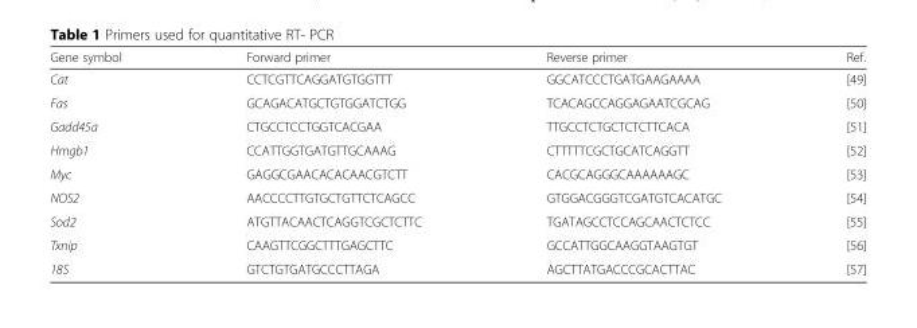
<table><thead><tr><td>Gene symbol</td><td>Forward primer</td><td>Reverse primer</td><td>Ref.</td></tr></thead><tbody><tr><td>Cat</td><td>CCTCGTTCAGGATGTGGTTT</td><td>GGCATCCCTGATGAAGAAAA</td><td>[49]</td></tr><tr><td>Fas</td><td>GCAGACATGCTGTGGATCTGG</td><td>TCACAGCCAGGAGAATCGCAG</td><td>[50]</td></tr><tr><td>Gadd45a</td><td>CTGCCTCCTGGTCACGAA</td><td>TTGCCTCTGCTCTCTTCACA</td><td>[51]</td></tr><tr><td>Hmgb1</td><td>CCATTGGTGATGTTGCAAAG</td><td>CTTTTTCGCTGCATCAGGTT</td><td>[52]</td></tr><tr><td>Myc</td><td>GAGGCGAACACACAACGTCTT</td><td>CACGCAGGGCAAAAAAGC</td><td>[53]</td></tr><tr><td>NOS2</td><td>AACCCCTTGTGCTGTTCTCAGCC</td><td>GTGGACGGGTCGATGTCACATGC</td><td>[54]</td></tr><tr><td>Sod2</td><td>ATGTTACAACTCAGGTCGCTCTTC</td><td>TGATAGCCTCCAGCAACTCTCC</td><td>[55]</td></tr><tr><td>Txnip</td><td>CAAGTTCGGCTTTGAGCTTC</td><td>GCCATTGGCAAGGTAAGTGT</td><td>[56]</td></tr><tr><td>18S</td><td>GTCTGTGATGCCCTTAGA</td><td>AGCTTATGACCCGCACTTAC</td><td>[57]</td></tr></tbody></table>